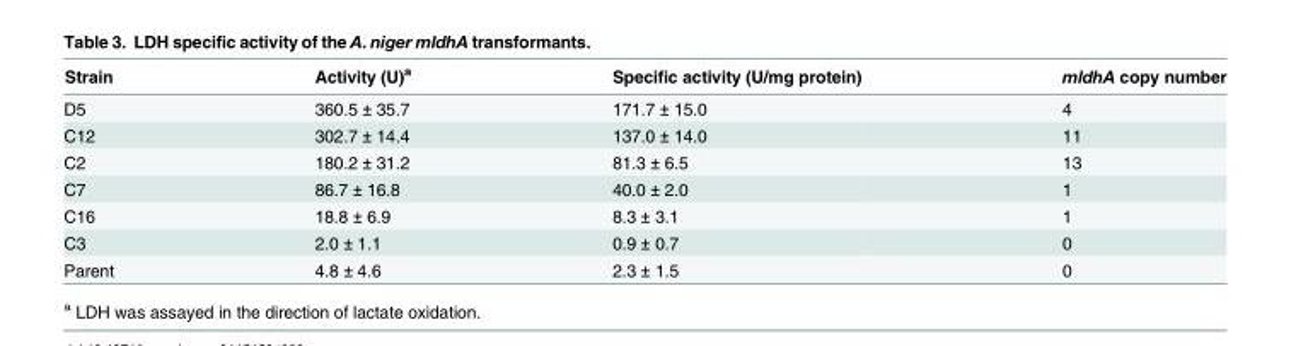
<table><thead><tr><td>Strain</td><td>Activity (U)<sup>a</sup></td><td>Specific activity (U/mg protein)</td><td>mldhA copy number</td></tr></thead><tbody><tr><td>D5</td><td>360.5 ± 35.7</td><td>171.7 ± 15.0</td><td>4</td></tr><tr><td>C12</td><td>302.7 ± 14.4</td><td>137.0 ± 14.0</td><td>11</td></tr><tr><td>C2</td><td>180.2 ± 31.2</td><td>81.3 ± 6.5</td><td>13</td></tr><tr><td>C7</td><td>86.7 ± 16.8</td><td>40.0 ± 2.0</td><td>1</td></tr><tr><td>C16</td><td>18.8 ± 6.9</td><td>8.3 ± 3.1</td><td>1</td></tr><tr><td>C3</td><td>2.0 ± 1.1</td><td>0.9 ± 0.7</td><td>0</td></tr><tr><td>Parent</td><td>4.8 ± 4.6</td><td>2.3 ± 1.5</td><td>0</td></tr></tbody></table>